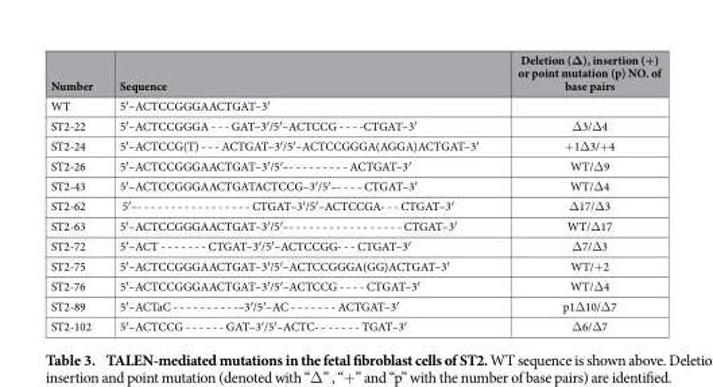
<table><thead><tr><td>Number</td><td>Sequence</td><td>Deletion (Δ), insertion (+) or point mutation (p) NO. of base pairs</td></tr></thead><tbody><tr><td>WT</td><td>5′–ACTCCGGGAACTGAT–3′</td><td></td></tr><tr><td>ST2-22</td><td>5′–ACTCCGGGA - - - GAT–3′/5′–ACTCCG - - - -CTGAT–3′</td><td>Δ 3/Δ 4</td></tr><tr><td>ST2-24</td><td>5′–ACTCCG(T) - - - ACTGAT–3′/5′–ACTCCGGGA(AGGA)ACTGAT–3′</td><td>+1Δ 3/+ 4</td></tr><tr><td>ST2-26</td><td>5′–ACTCCGGGAACTGAT–3′/5′–- - - - - - - - - ACTGAT–3′</td><td>WT/Δ 9</td></tr><tr><td>ST2-43</td><td>5′–ACTCCGGGAACTGATACTCCG–3′/5′–- - - - CTGAT–3′</td><td>WT/Δ 4</td></tr><tr><td>ST2-62</td><td>5′–- - - - - - - - - - - - - - - - - CTGAT–3′/5′–ACTCCGA- - - CTGAT–3′</td><td>Δ 17/Δ 3</td></tr><tr><td>ST2-63</td><td>5′–ACTCCGGGAACTGAT–3′/5′–- - - - - - - - - - - - - - - - - CTGAT–3′</td><td>WT/Δ 17</td></tr><tr><td>ST2-72</td><td>5′–ACT - - - - - - - CTGAT–3′/5′–ACTCCGG- - - CTGAT–3′</td><td>Δ 7/Δ 3</td></tr><tr><td>ST2-75</td><td>5′–ACTCCGGGAACTGAT–3′/5′–ACTCCGGGA(GG)ACTGAT–3′</td><td>WT/+ 2</td></tr><tr><td>ST2-76</td><td>5′–ACTCCGGGAACTGAT–3′/5′–ACTCCG - - - - CTGAT–3′</td><td>WT/Δ 4</td></tr><tr><td>ST2-89</td><td>5′–ACTaC - - - - - - - - - -–3′/5′–AC - - - - - - - ACTGAT–3′</td><td>p1Δ 10/Δ 7</td></tr><tr><td>ST2-102</td><td>5′–ACTCCG - - - - - - GAT–3′/5′–ACTC- - - - - - - TGAT–3′</td><td>Δ 6/Δ 7</td></tr></tbody></table>